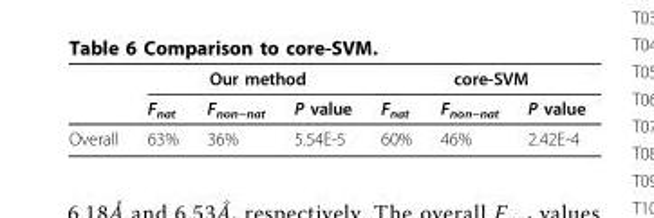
<table><thead><tr><td rowspan="2"></td><td colspan="3">Our method</td><td colspan="3">core-SVM</td></tr><tr><td>F<sub>nat</sub></td><td>F<sub>non−nat</sub></td><td>P value</td><td>F<sub>nat</sub></td><td>F<sub>non−nat</sub></td><td>P value</td></tr></thead><tbody><tr><td>Overall</td><td>63%</td><td>36%</td><td>5.54E-5</td><td>60%</td><td>46%</td><td>2.42E-4</td></tr></tbody></table>